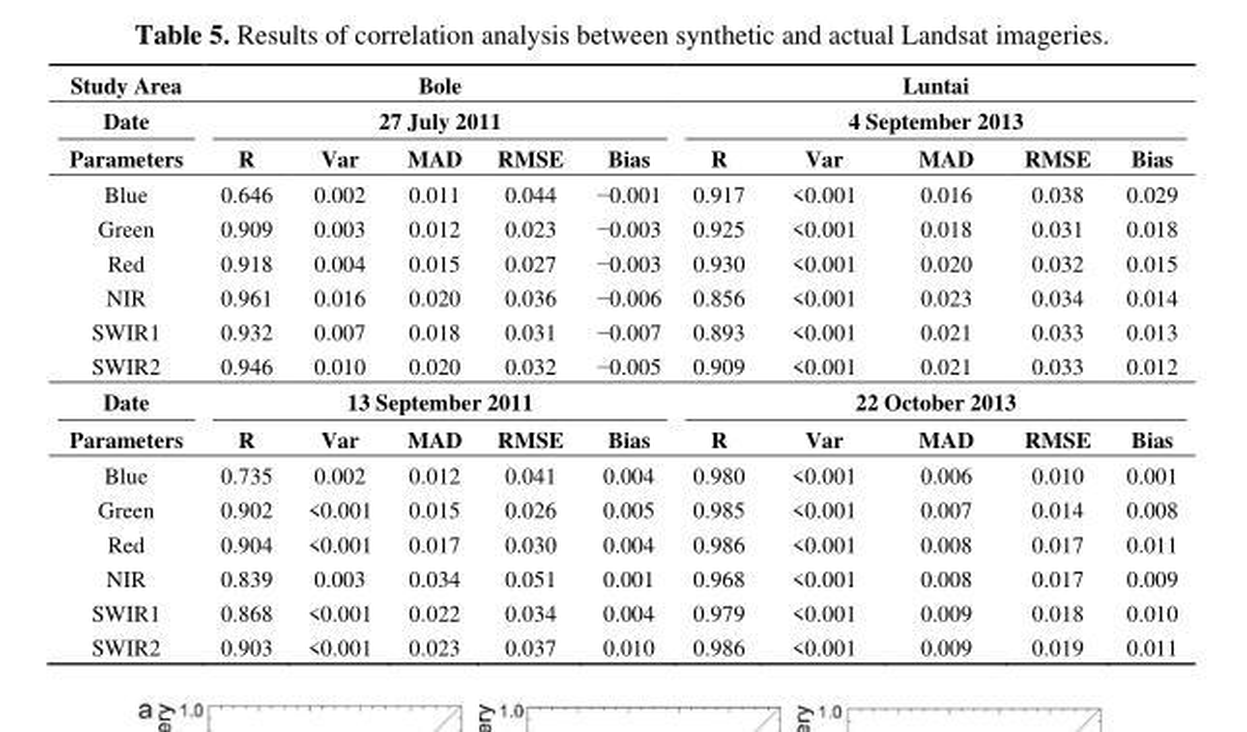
<table><thead><tr><td rowspan="3">Study Area Date Parameters</td><td rowspan="2" colspan="5">Bole 27 July 2011</td><td rowspan="2" colspan="5">Luntai 4 September 2013</td></tr><tr></tr><tr><td>R</td><td>Var</td><td>MAD</td><td>RMSE</td><td>Bias</td><td>R</td><td>Var</td><td>MAD</td><td>RMSE</td><td>Bias</td></tr></thead><tbody><tr><td>Blue</td><td>0.646</td><td>0.002</td><td>0.011</td><td>0.044</td><td>−0.001</td><td>0.917</td><td>&lt;0.001</td><td>0.016</td><td>0.038</td><td>0.029</td></tr><tr><td>Green</td><td>0.909</td><td>0.003</td><td>0.012</td><td>0.023</td><td>−0.003</td><td>0.925</td><td>&lt;0.001</td><td>0.018</td><td>0.031</td><td>0.018</td></tr><tr><td>Red</td><td>0.918</td><td>0.004</td><td>0.015</td><td>0.027</td><td>−0.003</td><td>0.930</td><td>&lt;0.001</td><td>0.020</td><td>0.032</td><td>0.015</td></tr><tr><td>NIR</td><td>0.961</td><td>0.016</td><td>0.020</td><td>0.036</td><td>−0.006</td><td>0.856</td><td>&lt;0.001</td><td>0.023</td><td>0.034</td><td>0.014</td></tr><tr><td>SWIR1</td><td>0.932</td><td>0.007</td><td>0.018</td><td>0.031</td><td>−0.007</td><td>0.893</td><td>&lt;0.001</td><td>0.021</td><td>0.033</td><td>0.013</td></tr><tr><td>SWIR2</td><td>0.946</td><td>0.010</td><td>0.020</td><td>0.032</td><td>−0.005</td><td>0.909</td><td>&lt;0.001</td><td>0.021</td><td>0.033</td><td>0.012</td></tr><tr><td>Date</td><td colspan="5">13 September 2011</td><td colspan="5">22 October 2013</td></tr><tr><td>Parameters</td><td>R</td><td>Var</td><td>MAD</td><td>RMSE</td><td>Bias</td><td>R</td><td>Var</td><td>MAD</td><td>RMSE</td><td>Bias</td></tr><tr><td>Blue</td><td>0.735</td><td>0.002</td><td>0.012</td><td>0.041</td><td>0.004</td><td>0.980</td><td>&lt;0.001</td><td>0.006</td><td>0.010</td><td>0.001</td></tr><tr><td>Green</td><td>0.902</td><td>&lt;0.001</td><td>0.015</td><td>0.026</td><td>0.005</td><td>0.985</td><td>&lt;0.001</td><td>0.007</td><td>0.014</td><td>0.008</td></tr><tr><td>Red</td><td>0.904</td><td>&lt;0.001</td><td>0.017</td><td>0.030</td><td>0.004</td><td>0.986</td><td>&lt;0.001</td><td>0.008</td><td>0.017</td><td>0.011</td></tr><tr><td>NIR</td><td>0.839</td><td>0.003</td><td>0.034</td><td>0.051</td><td>0.001</td><td>0.968</td><td>&lt;0.001</td><td>0.008</td><td>0.017</td><td>0.009</td></tr><tr><td>SWIR1</td><td>0.868</td><td>&lt;0.001</td><td>0.022</td><td>0.034</td><td>0.004</td><td>0.979</td><td>&lt;0.001</td><td>0.009</td><td>0.018</td><td>0.010</td></tr><tr><td>SWIR2</td><td>0.903</td><td>&lt;0.001</td><td>0.023</td><td>0.037</td><td>0.010</td><td>0.986</td><td>&lt;0.001</td><td>0.009</td><td>0.019</td><td>0.011</td></tr></tbody></table>